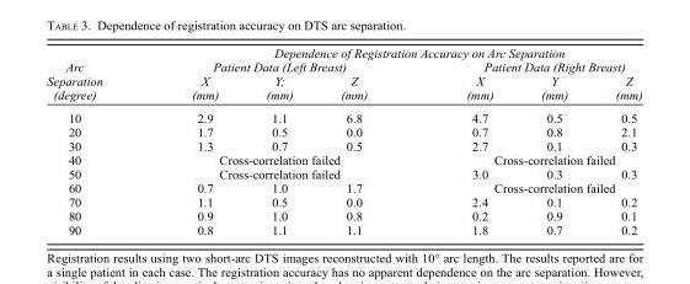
<table><thead><tr><td rowspan="3">Arc Separation (degree)</td><td colspan="6">Dependence of Registration Accuracy on Arc Separation</td></tr><tr><td colspan="3">Patient Data (Left Breast)</td><td colspan="3">Patient Data (Right Breast)</td></tr><tr><td>X (mm)</td><td>Y; (mm)</td><td>Z (mm)</td><td>X (mm)</td><td>Y (mm)</td><td>Z (mm)</td></tr></thead><tbody><tr><td>10</td><td>2.9</td><td>1.1</td><td>6.8</td><td>4.7</td><td>0.5</td><td>0.5</td></tr><tr><td>20</td><td>1.7</td><td>0.5</td><td>0.0</td><td>0.7</td><td>0.8</td><td>2.1</td></tr><tr><td>30</td><td>1.3</td><td>0.7</td><td>0.5</td><td>2.7</td><td>0.1</td><td>0.3</td></tr><tr><td>40</td><td colspan="3">Cross-correlation failed</td><td colspan="3">Cross-correlation failed</td></tr><tr><td>50</td><td colspan="3">Cross-correlation failed</td><td>3.0</td><td>0.3</td><td>0.3</td></tr><tr><td>60</td><td>0.7</td><td>1.0</td><td>1.7</td><td colspan="3">Cross-correlation failed</td></tr><tr><td>70</td><td>1.1</td><td>0.5</td><td>0.0</td><td>2.4</td><td>0.1</td><td>0.2</td></tr><tr><td>80</td><td>0.9</td><td>1.0</td><td>0.8</td><td>0.2</td><td>0.9</td><td>0.1</td></tr><tr><td>90</td><td>0.8</td><td>1.1</td><td>1.1</td><td>1.8</td><td>0.7</td><td>0.2</td></tr></tbody></table>